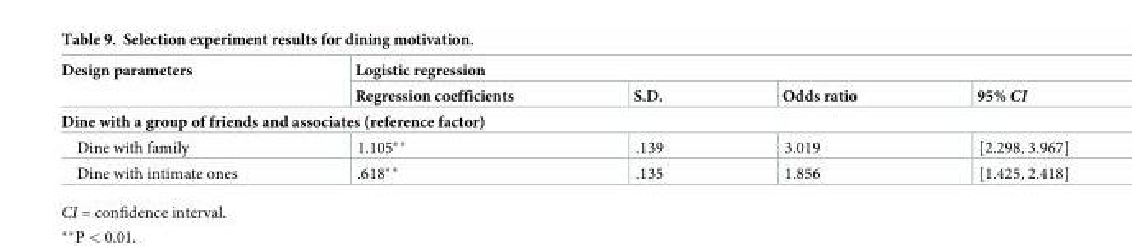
<table><thead><tr><td rowspan="2">Design parameters</td><td colspan="4">Logistic regression</td></tr><tr><td>Regression coefficients</td><td>S.D.</td><td>Odds ratio</td><td>95% CI</td></tr></thead><tbody><tr><td colspan="5">Dine with a group of friends and associates (reference factor)</td></tr><tr><td>Dine with family</td><td>1.105**</td><td>.139</td><td>3.019</td><td>[2.298, 3.967]</td></tr><tr><td>Dine with intimate ones</td><td>.618**</td><td>.135</td><td>1.856</td><td>[1.425, 2.418]</td></tr></tbody></table>